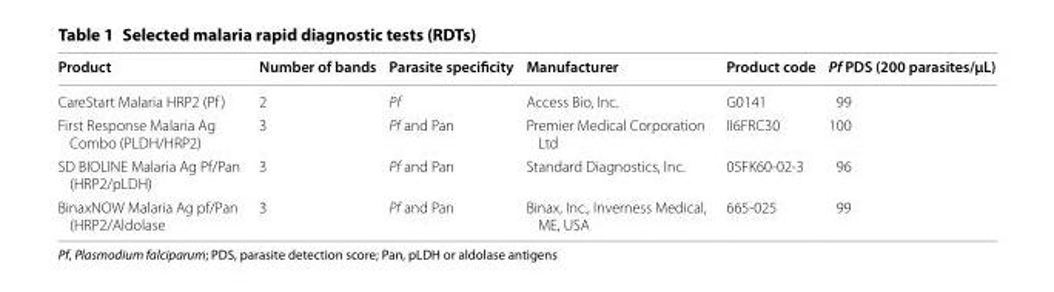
<table><thead><tr><td>Product</td><td>Number of bands</td><td>Parasite specificity</td><td>Manufacturer</td><td>Product code</td><td>Pf PDS (200 parasites/μL)</td></tr></thead><tbody><tr><td>CareStart Malaria HRP2 (Pf)</td><td>2</td><td>Pf</td><td>Access Bio, Inc.</td><td>G0141</td><td>99</td></tr><tr><td>First Response Malaria Ag Combo (PLDH/HRP2)</td><td>3</td><td>Pf and Pan</td><td>Premier Medical Corporation Ltd</td><td>II6FRC30</td><td>100</td></tr><tr><td>SD BIOLINE Malaria Ag Pf/Pan (HRP2/pLDH)</td><td>3</td><td>Pf and Pan</td><td>Standard Diagnostics, Inc.</td><td>05FK60-02-3</td><td>96</td></tr><tr><td>BinaxNOW Malaria Ag pf/Pan (HRP2/Aldolase</td><td>3</td><td>Pf and Pan</td><td>Binax, Inc., Inverness Medical, ME, USA</td><td>665-025</td><td>99</td></tr></tbody></table>